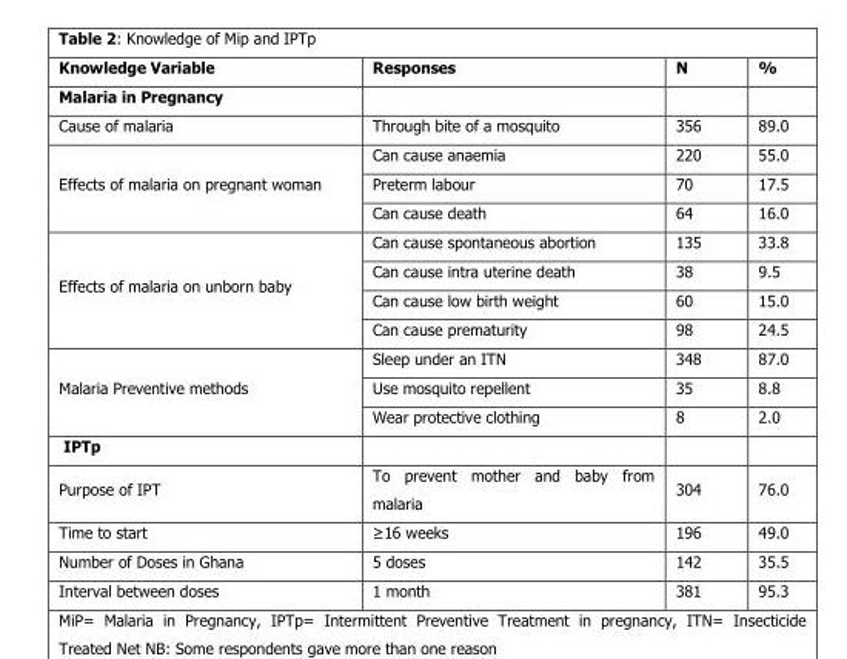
<table><thead><tr><td>Knowledge Variable</td><td>Responses</td><td>N</td><td>%</td></tr></thead><tbody><tr><td colspan="4">Malaria in Pregnancy</td></tr><tr><td>Cause of malaria</td><td>Through bite of a mosquito</td><td>356</td><td>89.0</td></tr><tr><td rowspan="3">Effects of malaria on pregnant woman</td><td>Can cause anaemia</td><td>220</td><td>55.0</td></tr><tr><td>Preterm labour</td><td>70</td><td>17.5</td></tr><tr><td>Can cause death</td><td>64</td><td>16.0</td></tr><tr><td rowspan="4">Effects of malaria on unborn baby</td><td>Can cause spontaneous abortion</td><td>135</td><td>33.8</td></tr><tr><td>Can cause intra uterine death</td><td>38</td><td>9.5</td></tr><tr><td>Can cause low birth weight</td><td>60</td><td>15.0</td></tr><tr><td>Can cause prematurity</td><td>98</td><td>24.5</td></tr><tr><td rowspan="3">Malaria Preventive methods</td><td>Sleep under an ITN</td><td>348</td><td>87.0</td></tr><tr><td>Use mosquito repellent</td><td>35</td><td>8.8</td></tr><tr><td>Wear protective clothing</td><td>8</td><td>2.0</td></tr><tr><td colspan="4">IPTp</td></tr><tr><td>Purpose of IPT</td><td>To prevent mother and baby from malaria</td><td>304</td><td>76.0</td></tr><tr><td>Time to start</td><td>≥16 weeks</td><td>196</td><td>49.0</td></tr><tr><td>Number of Doses in Ghana</td><td>5 doses</td><td>142</td><td>35.5</td></tr><tr><td>Interval between doses</td><td>1 month</td><td>381</td><td>95.3</td></tr></tbody></table>